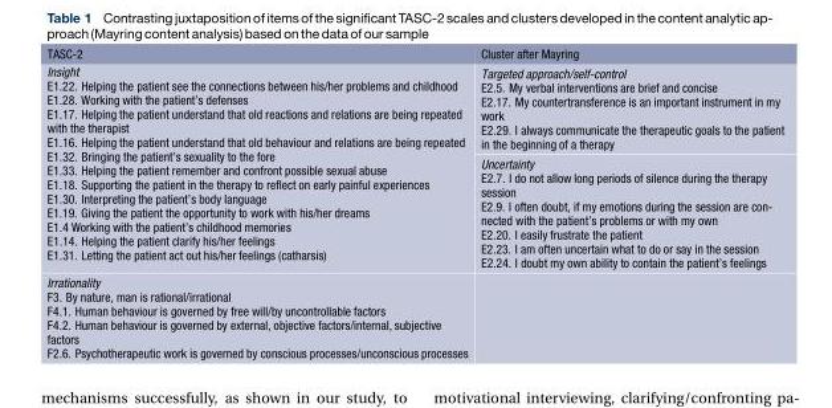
<table><thead><tr><td>TASC-2</td><td>Cluster after Mayring</td></tr></thead><tbody><tr><td rowspan="2">Insight E1.22. Helping the patient see the connections between his/her problems and childhood E1.28. Working with the patient’s defenses E1.17. Helping the patient understand that old reactions and relations are being repeated with the therapist E1.16. Helping the patient understand that old behaviour and relations are being repeated E1.32. Bringing the patient’s sexuality to the fore E1.33. Helping the patient remember and confront possible sexual abuse E1.18. Supporting the patient in the therapy to reflect on early painful experiences E1.30. Interpreting the patient’s body language E1.19. Giving the patient the opportunity to work with his/her dreams E1.4 Working with the patient’s childhood memories E1.14. Helping the patient clarify his/her feelings E1.31. Letting the patient act out his/her feelings (catharsis)</td><td>Targeted approach/self-control E2.5. My verbal interventions are brief and concise E2.17. My countertransference is an important instrument in my work E2.29. I always communicate the therapeutic goals to the patient in the beginning of a therapy</td></tr><tr><td>Uncertainty E2.7. I do not allow long periods of silence during the therapy session E2.9. I often doubt, if my emotions during the session are con- nected with the patient’s problems or with my own E2.20. I easily frustrate the patient E2.23. I am often uncertain what to do or say in the session E2.24. I doubt my own ability to contain the patient’s feelings</td></tr><tr><td>Irrationality F3. By nature, man is rational/irrational F4.1. Human behaviour is governed by free will/by uncontrollable factors F4.2. Human behaviour is governed by external, objective factors/internal, subjective factors F2.6. Psychotherapeutic work is governed by conscious processes/unconscious processes</td><td></td></tr></tbody></table>